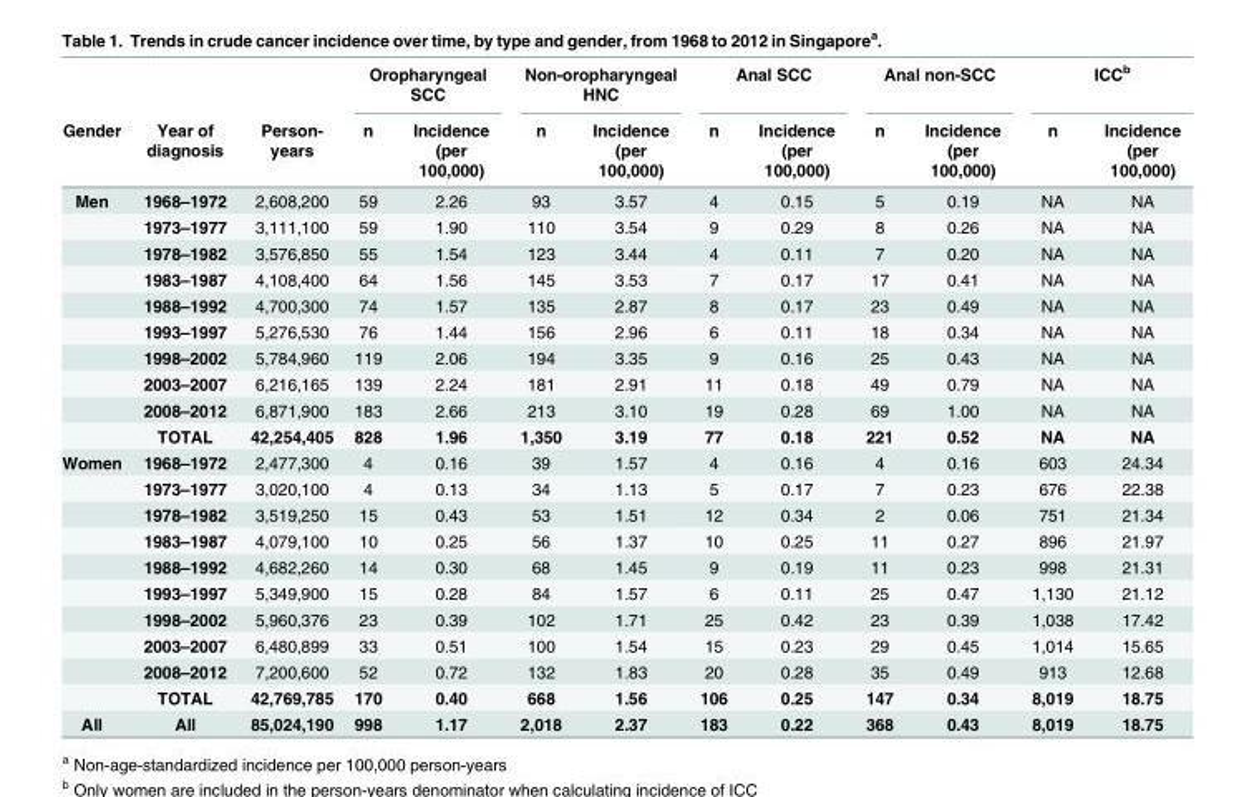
<table><thead><tr><td rowspan="2">Gender</td><td rowspan="2">Year of diagnosis</td><td rowspan="2">Person- years</td><td colspan="2">Oropharyngeal SCC</td><td colspan="2">Non-oropharyngeal HNC</td><td colspan="2">Anal SCC</td><td colspan="2">Anal non-SCC</td><td colspan="2">ICC<sup>b</sup></td></tr><tr><td>n</td><td>Incidence (per 100,000)</td><td>n</td><td>Incidence (per 100,000)</td><td>n</td><td>Incidence (per 100,000)</td><td>n</td><td>Incidence (per 100,000)</td><td>n</td><td>Incidence (per 100,000)</td></tr></thead><tbody><tr><td rowspan="10">Men</td><td>1968–1972</td><td>2,608,200</td><td>59</td><td>2.26</td><td>93</td><td>3.57</td><td>4</td><td>0.15</td><td>5</td><td>0.19</td><td>NA</td><td>NA</td></tr><tr><td>1973–1977</td><td>3,111,100</td><td>59</td><td>1.90</td><td>110</td><td>3.54</td><td>9</td><td>0.29</td><td>8</td><td>0.26</td><td>NA</td><td>NA</td></tr><tr><td>1978–1982</td><td>3,576,850</td><td>55</td><td>1.54</td><td>123</td><td>3.44</td><td>4</td><td>0.11</td><td>7</td><td>0.20</td><td>NA</td><td>NA</td></tr><tr><td>1983–1987</td><td>4,108,400</td><td>64</td><td>1.56</td><td>145</td><td>3.53</td><td>7</td><td>0.17</td><td>17</td><td>0.41</td><td>NA</td><td>NA</td></tr><tr><td>1988–1992</td><td>4,700,300</td><td>74</td><td>1.57</td><td>135</td><td>2.87</td><td>8</td><td>0.17</td><td>23</td><td>0.49</td><td>NA</td><td>NA</td></tr><tr><td>1993–1997</td><td>5,276,530</td><td>76</td><td>1.44</td><td>156</td><td>2.96</td><td>6</td><td>0.11</td><td>18</td><td>0.34</td><td>NA</td><td>NA</td></tr><tr><td>1998–2002</td><td>5,784,960</td><td>119</td><td>2.06</td><td>194</td><td>3.35</td><td>9</td><td>0.16</td><td>25</td><td>0.43</td><td>NA</td><td>NA</td></tr><tr><td>2003–2007</td><td>6,216,165</td><td>139</td><td>2.24</td><td>181</td><td>2.91</td><td>11</td><td>0.18</td><td>49</td><td>0.79</td><td>NA</td><td>NA</td></tr><tr><td>2008–2012</td><td>6,871,900</td><td>183</td><td>2.66</td><td>213</td><td>3.10</td><td>19</td><td>0.28</td><td>69</td><td>1.00</td><td>NA</td><td>NA</td></tr><tr><td>TOTAL</td><td>42,254,405</td><td>828</td><td>1.96</td><td>1,350</td><td>3.19</td><td>77</td><td>0.18</td><td>221</td><td>0.52</td><td>NA</td><td>NA</td></tr><tr><td rowspan="10">Women</td><td>1968–1972</td><td>2,477,300</td><td>4</td><td>0.16</td><td>39</td><td>1.57</td><td>4</td><td>0.16</td><td>4</td><td>0.16</td><td>603</td><td>24.34</td></tr><tr><td>1973–1977</td><td>3,020,100</td><td>4</td><td>0.13</td><td>34</td><td>1.13</td><td>5</td><td>0.17</td><td>7</td><td>0.23</td><td>676</td><td>22.38</td></tr><tr><td>1978–1982</td><td>3,519,250</td><td>15</td><td>0.43</td><td>53</td><td>1.51</td><td>12</td><td>0.34</td><td>2</td><td>0.06</td><td>751</td><td>21.34</td></tr><tr><td>1983–1987</td><td>4,079,100</td><td>10</td><td>0.25</td><td>56</td><td>1.37</td><td>10</td><td>0.25</td><td>11</td><td>0.27</td><td>896</td><td>21.97</td></tr><tr><td>1988–1992</td><td>4,682,260</td><td>14</td><td>0.30</td><td>68</td><td>1.45</td><td>9</td><td>0.19</td><td>11</td><td>0.23</td><td>998</td><td>21.31</td></tr><tr><td>1993–1997</td><td>5,349,900</td><td>15</td><td>0.28</td><td>84</td><td>1.57</td><td>6</td><td>0.11</td><td>25</td><td>0.47</td><td>1,130</td><td>21.12</td></tr><tr><td>1998–2002</td><td>5,960,376</td><td>23</td><td>0.39</td><td>102</td><td>1.71</td><td>25</td><td>0.42</td><td>23</td><td>0.39</td><td>1,038</td><td>17.42</td></tr><tr><td>2003–2007</td><td>6,480,899</td><td>33</td><td>0.51</td><td>100</td><td>1.54</td><td>15</td><td>0.23</td><td>29</td><td>0.45</td><td>1,014</td><td>15.65</td></tr><tr><td>2008–2012</td><td>7,200,600</td><td>52</td><td>0.72</td><td>132</td><td>1.83</td><td>20</td><td>0.28</td><td>35</td><td>0.49</td><td>913</td><td>12.68</td></tr><tr><td>TOTAL</td><td>42,769,785</td><td>170</td><td>0.40</td><td>668</td><td>1.56</td><td>106</td><td>0.25</td><td>147</td><td>0.34</td><td>8,019</td><td>18.75</td></tr><tr><td>All</td><td>All</td><td>85,024,190</td><td>998</td><td>1.17</td><td>2,018</td><td>2.37</td><td>183</td><td>0.22</td><td>368</td><td>0.43</td><td>8,019</td><td>18.75</td></tr></tbody></table>